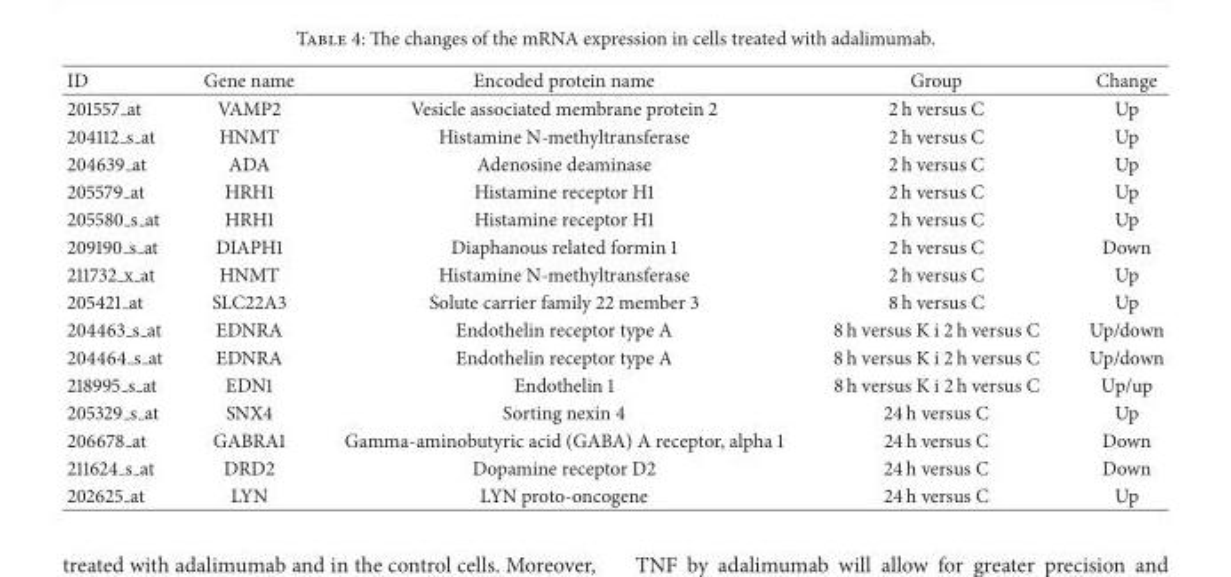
<table><thead><tr><td>ID</td><td>Gene name</td><td>Encoded protein name</td><td>Group</td><td>Change</td></tr></thead><tbody><tr><td>201557 at</td><td>VAMP2</td><td>Vesicle associated membrane protein 2</td><td>2 h versus C</td><td>Up</td></tr><tr><td>204112 <sub>s</sub> at</td><td>HNMT</td><td>Histamine N-methyltransferase</td><td>2 h versus C</td><td>Up</td></tr><tr><td>204639 at</td><td>ADA</td><td>Adenosine deaminase</td><td>2 h versus C</td><td>Up</td></tr><tr><td>205579 at</td><td>HRH1</td><td>Histamine receptor H1</td><td>2 h versus C</td><td>Up</td></tr><tr><td>205580 <sub>s</sub> at</td><td>HRH1</td><td>Histamine receptor H1</td><td>2 h versus C</td><td>Up</td></tr><tr><td>209190 <sub>s</sub> at</td><td>DIAPH1</td><td>Diaphanous related formin 1</td><td>2 h versus C</td><td>Down</td></tr><tr><td>211732 <sub>x</sub> at</td><td>HNMT</td><td>Histamine N-methyltransferase</td><td>2 h versus C</td><td>Up</td></tr><tr><td>205421 at</td><td>SLC22A3</td><td>Solute carrier family 22 member 3</td><td>8 h versus C</td><td>Up</td></tr><tr><td>204463 <sub>s</sub> at</td><td>EDNRA</td><td>Endothelin receptor type A</td><td>8 h versus K i 2 h versus C</td><td>Up/down</td></tr><tr><td>204464 <sub>s</sub> at</td><td>EDNRA</td><td>Endothelin receptor type A</td><td>8 h versus K i 2 h versus C</td><td>Up/down</td></tr><tr><td>218995 <sub>s</sub> at</td><td>EDN1</td><td>Endothelin 1</td><td>8 h versus K i 2 h versus C</td><td>Up/up</td></tr><tr><td>205329 <sub>s</sub> at</td><td>SNX4</td><td>Sorting nexin 4</td><td>24 h versus C</td><td>Up</td></tr><tr><td>206678 at</td><td>GABRA1</td><td>Gamma-aminobutyric acid (GABA) A receptor, alpha 1</td><td>24 h versus C</td><td>Down</td></tr><tr><td>211624 <sub>s</sub> at</td><td>DRD2</td><td>Dopamine receptor D2</td><td>24 h versus C</td><td>Down</td></tr><tr><td>202625 at</td><td>LYN</td><td>LYN proto-oncogene</td><td>24 h versus C</td><td>Up</td></tr></tbody></table>